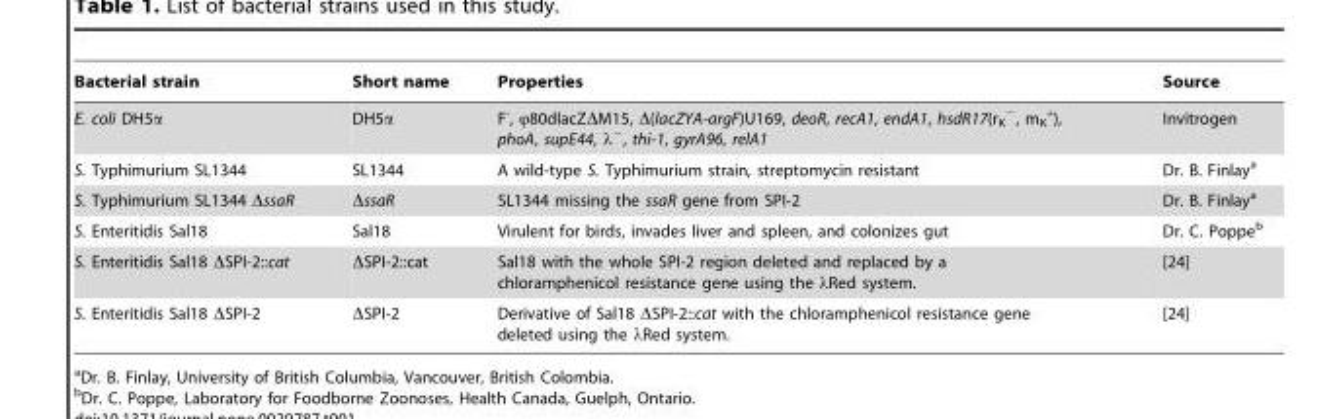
<table><thead><tr><td>Bacterial strain</td><td>Short name</td><td>Properties</td><td>Source</td></tr></thead><tbody><tr><td>E. coli DH5α</td><td>DH5α</td><td>F<sup>-</sup>, ϕ80dlacZΔM15, Δ(lacZYA-argF)U169, deoR, recA1, endA1, hsdR17(r<sub>K</sub> <sup>−</sup>, m<sub>K</sub> <sup>+</sup>), phoA, supE44, λ<sup>−</sup>, thi-1, gyrA96, relA1</td><td>Invitrogen</td></tr><tr><td>S. Typhimurium SL1344</td><td>SL1344</td><td>A wild-type S. Typhimurium strain, streptomycin resistant</td><td>Dr. B. Finlay<sup>a</sup></td></tr><tr><td>S. Typhimurium SL1344 ΔssaR</td><td>ΔssaR</td><td>SL1344 missing the ssaR gene from SPI-2</td><td>Dr. B. Finlay<sup>a</sup></td></tr><tr><td>S. Enteritidis Sal18</td><td>Sal18</td><td>Virulent for birds, invades liver and spleen, and colonizes gut</td><td>Dr. C. Poppe<sup>b</sup></td></tr><tr><td>S. Enteritidis Sal18 ΔSPI-2::cat</td><td>ΔSPI-2::cat</td><td>Sal18 with the whole SPI-2 region deleted and replaced by a chloramphenicol resistance gene using the λRed system.</td><td>[24]</td></tr><tr><td>S. Enteritidis Sal18 ΔSPI-2</td><td>ΔSPI-2</td><td>Derivative of Sal18 ΔSPI-2::cat with the chloramphenicol resistance gene deleted using the λRed system.</td><td>[24]</td></tr></tbody></table>